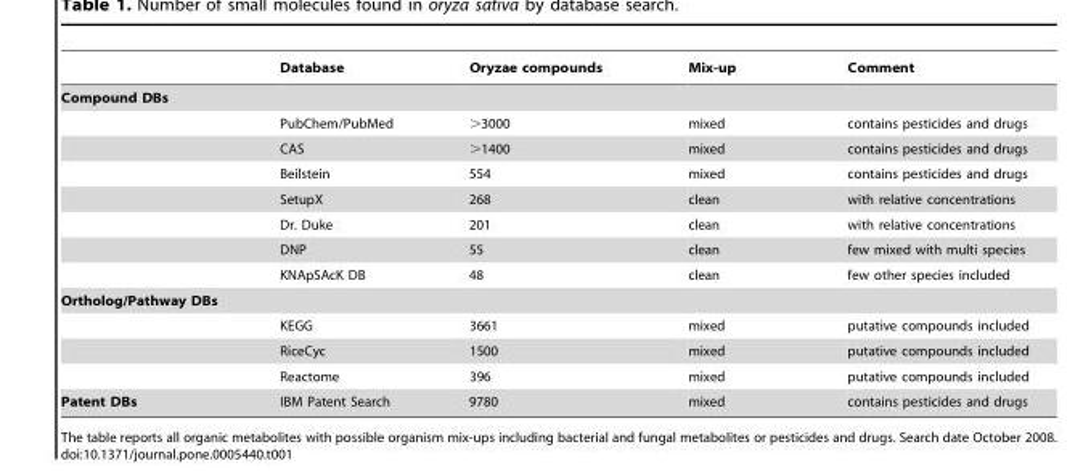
<table><thead><tr><td></td><td>Database</td><td>Oryzae compounds</td><td>Mix-up</td><td>Comment</td></tr></thead><tbody><tr><td colspan="5">Compound DBs</td></tr><tr><td></td><td>PubChem/PubMed</td><td>&gt;3000</td><td>mixed</td><td>contains pesticides and drugs</td></tr><tr><td></td><td>CAS</td><td>&gt;1400</td><td>mixed</td><td>contains pesticides and drugs</td></tr><tr><td></td><td>Beilstein</td><td>554</td><td>mixed</td><td>contains pesticides and drugs</td></tr><tr><td></td><td>SetupX</td><td>268</td><td>clean</td><td>with relative concentrations</td></tr><tr><td></td><td>Dr. Duke</td><td>201</td><td>clean</td><td>with relative concentrations</td></tr><tr><td></td><td>DNP</td><td>55</td><td>clean</td><td>few mixed with multi species</td></tr><tr><td></td><td>KNApSAcK DB</td><td>48</td><td>clean</td><td>few other species included</td></tr><tr><td colspan="5">Ortholog/Pathway DBs</td></tr><tr><td></td><td>KEGG</td><td>3661</td><td>mixed</td><td>putative compounds included</td></tr><tr><td></td><td>RiceCyc</td><td>1500</td><td>mixed</td><td>putative compounds included</td></tr><tr><td></td><td>Reactome</td><td>396</td><td>mixed</td><td>putative compounds included</td></tr><tr><td>Patent DBs</td><td>IBM Patent Search</td><td>9780</td><td>mixed</td><td>contains pesticides and drugs</td></tr></tbody></table>